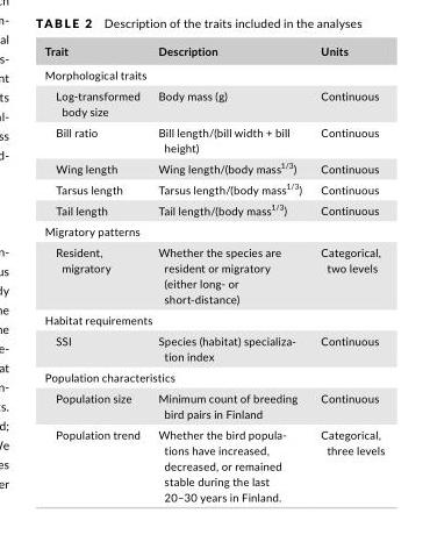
<table><thead><tr><td>Trait</td><td>Description</td><td>Units</td></tr></thead><tbody><tr><td colspan="3">Morphological traits</td></tr><tr><td>Log- transformed body size</td><td>Body mass (g)</td><td>Continuous</td></tr><tr><td>Bill ratio</td><td>Bill length/(bill width + bill height)</td><td>Continuous</td></tr><tr><td>Wing length</td><td>Wing length/(body mass<sup>1/3</sup>)</td><td>Continuous</td></tr><tr><td>Tarsus length</td><td>Tarsus length/(body mass<sup>1/3</sup>)</td><td>Continuous</td></tr><tr><td>Tail length</td><td>Tail length/(body mass<sup>1/3</sup>)</td><td>Continuous</td></tr><tr><td colspan="3">Migratory patterns</td></tr><tr><td>Resident, migratory</td><td>Whether the species are resident or migratory (either long- or short- distance)</td><td>Categorical, two levels</td></tr><tr><td colspan="3">Habitat requirements</td></tr><tr><td>SSI</td><td>Species (habitat) specializa- tion index</td><td>Continuous</td></tr><tr><td colspan="3">Population characteristics</td></tr><tr><td>Population size</td><td>Minimum count of breeding bird pairs in Finland</td><td>Continuous</td></tr><tr><td>Population trend</td><td>Whether the bird popula- tions have increased, decreased, or remained stable during the last 20–30 years in Finland.</td><td>Categorical, three levels</td></tr></tbody></table>